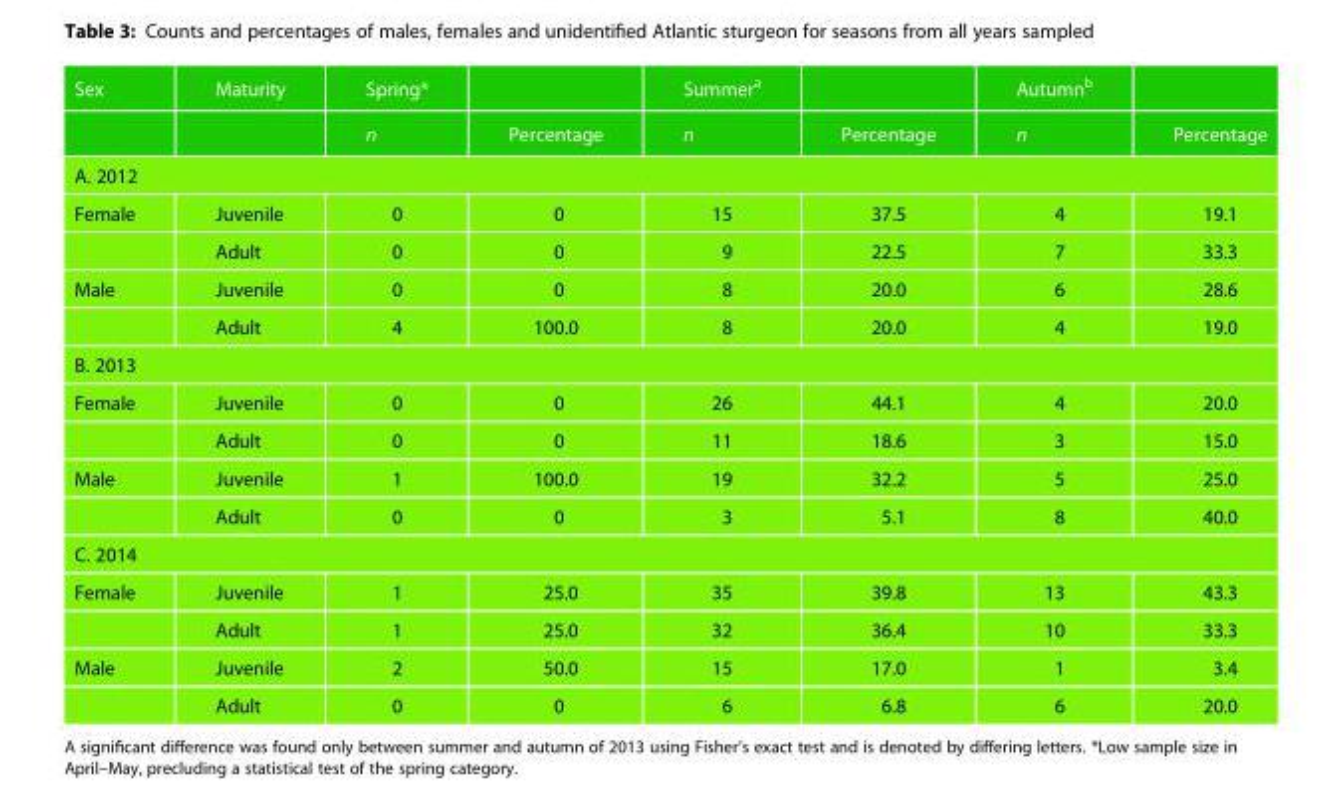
<table><thead><tr><td rowspan="2">Sex</td><td rowspan="2">Maturity</td><td rowspan="2">Spring* n</td><td rowspan="2">Percentage</td><td rowspan="2">Summer<sup>a</sup> n</td><td rowspan="2">Percentage</td><td rowspan="2">Autumn<sup>b</sup> n</td><td rowspan="2">Percentage</td></tr><tr></tr></thead><tbody><tr><td colspan="8">A. 2012</td></tr><tr><td rowspan="2">Female</td><td>Juvenile</td><td>0</td><td>0</td><td>15</td><td>37.5</td><td>4</td><td>19.1</td></tr><tr><td>Adult</td><td>0</td><td>0</td><td>9</td><td>22.5</td><td>7</td><td>33.3</td></tr><tr><td rowspan="2">Male</td><td>Juvenile</td><td>0</td><td>0</td><td>8</td><td>20.0</td><td>6</td><td>28.6</td></tr><tr><td>Adult</td><td>4</td><td>100.0</td><td>8</td><td>20.0</td><td>4</td><td>19.0</td></tr><tr><td colspan="8">B. 2013</td></tr><tr><td rowspan="2">Female</td><td>Juvenile</td><td>0</td><td>0</td><td>26</td><td>44.1</td><td>4</td><td>20.0</td></tr><tr><td>Adult</td><td>0</td><td>0</td><td>11</td><td>18.6</td><td>3</td><td>15.0</td></tr><tr><td rowspan="2">Male</td><td>Juvenile</td><td>1</td><td>100.0</td><td>19</td><td>32.2</td><td>5</td><td>25.0</td></tr><tr><td>Adult</td><td>0</td><td>0</td><td>3</td><td>5.1</td><td>8</td><td>40.0</td></tr><tr><td colspan="8">C. 2014</td></tr><tr><td rowspan="2">Female</td><td>Juvenile</td><td>1</td><td>25.0</td><td>35</td><td>39.8</td><td>13</td><td>43.3</td></tr><tr><td>Adult</td><td>1</td><td>25.0</td><td>32</td><td>36.4</td><td>10</td><td>33.3</td></tr><tr><td rowspan="2">Male</td><td>Juvenile</td><td>2</td><td>50.0</td><td>15</td><td>17.0</td><td>1</td><td>3.4</td></tr><tr><td>Adult</td><td>0</td><td>0</td><td>6</td><td>6.8</td><td>6</td><td>20.0</td></tr></tbody></table>